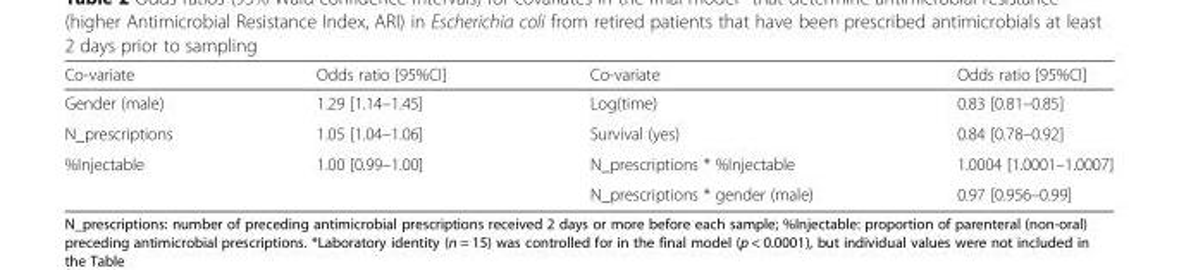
<table><thead><tr><td>Co-variate</td><td>Odds ratio [95%CI]</td><td>Co-variate</td><td>Odds ratio [95%CI]</td></tr></thead><tbody><tr><td>Gender (male)</td><td>1.29 [1.14–1.45]</td><td>Log(time)</td><td>0.83 [0.81–0.85]</td></tr><tr><td>N_prescriptions</td><td>1.05 [1.04–1.06]</td><td>Survival (yes)</td><td>0.84 [0.78–0.92]</td></tr><tr><td rowspan="2">%Injectable</td><td>1.00 [0.99–1.00]</td><td>N_prescriptions * %Injectable</td><td>1.0004 [1.0001–1.0007]</td></tr><tr><td></td><td>N_prescriptions * gender (male)</td><td>0.97 [0.956–0.99]</td></tr></tbody></table>